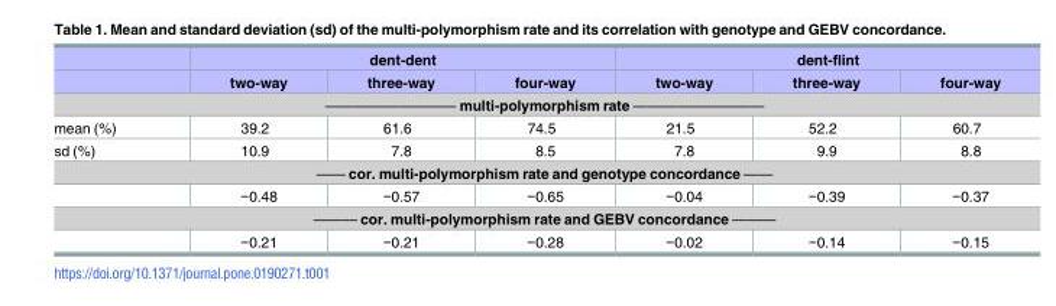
<table><thead><tr><td rowspan="2"></td><td colspan="3">dent-dent</td><td colspan="3">dent-flint</td></tr><tr><td>two-way</td><td>three-way</td><td>four-way</td><td>two-way</td><td>three-way</td><td>four-way</td></tr></thead><tbody><tr><td colspan="7">————————— multi-polymorphism rate —————————</td></tr><tr><td>mean (%)</td><td>39.2</td><td>61.6</td><td>74.5</td><td>21.5</td><td>52.2</td><td>60.7</td></tr><tr><td>sd (%)</td><td>10.9</td><td>7.8</td><td>8.5</td><td>7.8</td><td>9.9</td><td>8.8</td></tr><tr><td colspan="7">—— cor. multi-polymorphism rate and genotype concordance ——</td></tr><tr><td></td><td>−0.48</td><td>−0.57</td><td>−0.65</td><td>−0.04</td><td>−0.39</td><td>−0.37</td></tr><tr><td colspan="7">——— cor. multi-polymorphism rate and GEBV concordance ———</td></tr><tr><td></td><td>−0.21</td><td>−0.21</td><td>−0.28</td><td>−0.02</td><td>−0.14</td><td>−0.15</td></tr></tbody></table>